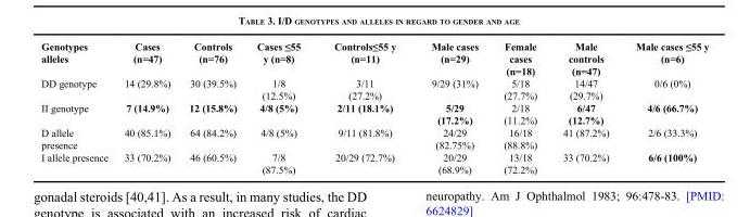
<table><thead><tr><td>Genotypes alleles</td><td>Cases (n=47)</td><td>Controls (n=76)</td><td>Cases ≤55 y (n=8)</td><td>Controls≤55 y (n=11)</td><td>Male cases (n=29)</td><td>Female cases (n=18)</td><td>Male controls (n=47)</td><td>Male cases ≤55 y (n=6)</td></tr></thead><tbody><tr><td>DD genotype</td><td>14 (29.8%)</td><td>30 (39.5%)</td><td>1/8 (12.5%)</td><td>3/11 (27.2%)</td><td>9/29 (31%)</td><td>5/18 (27.7%)</td><td>14/47 (29.7%)</td><td>0/6 (0%)</td></tr><tr><td>II genotype</td><td>7 (14.9%)</td><td>12 (15.8%)</td><td>4/8 (5%)</td><td>2/11 (18.1%)</td><td>5/29 (17.2%)</td><td>2/18 (11.2%)</td><td>6/47 (12.7%)</td><td>4/6 (66.7%)</td></tr><tr><td>D allele presence</td><td>40 (85.1%)</td><td>64 (84.2%)</td><td>4/8 (5%)</td><td>9/11 (81.8%)</td><td>24/29 (82.75%)</td><td>16/18 (88.8%)</td><td>41 (87.2%)</td><td>2/6 (33.3%)</td></tr><tr><td>I allele presence</td><td>33 (70.2%)</td><td>46 (60.5%)</td><td>7/8 (87.5%)</td><td>20/29 (72.7%)</td><td>20/29 (68.9%)</td><td>13/18 (72.2%)</td><td>33 (70.2%)</td><td>6/6 (100%)</td></tr></tbody></table>